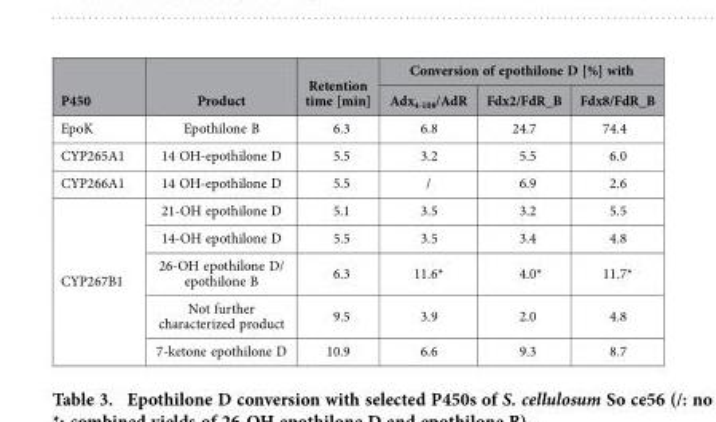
<table><thead><tr><td rowspan="2">P450</td><td rowspan="2">Product</td><td rowspan="2">Retention time [min]</td><td colspan="3">Conversion of epothilone D [%] with</td></tr><tr><td>Adx<sub>4-108</sub>/AdR</td><td>Fdx2/FdR_B</td><td>Fdx8/FdR_B</td></tr></thead><tbody><tr><td>EpoK</td><td>Epothilone B</td><td>6.3</td><td>6.8</td><td>24.7</td><td>74.4</td></tr><tr><td>CYP265A1</td><td>14 OH-epothilone D</td><td>5.5</td><td>3.2</td><td>5.5</td><td>6.0</td></tr><tr><td>CYP266A1</td><td>14 OH-epothilone D</td><td>5.5</td><td>/</td><td>6.9</td><td>2.6</td></tr><tr><td rowspan="5">CYP267B1</td><td>21-OH epothilone D</td><td>5.1</td><td>3.5</td><td>3.2</td><td>5.5</td></tr><tr><td>14-OH epothilone D</td><td>5.5</td><td>3.5</td><td>3.4</td><td>4.8</td></tr><tr><td>26-OH epothilone D/ epothilone B</td><td>6.3</td><td>11.6*</td><td>4.0*</td><td>11.7*</td></tr><tr><td>Not further characterized product</td><td>9.5</td><td>3.9</td><td>2.0</td><td>4.8</td></tr><tr><td>7-ketone epothilone D</td><td>10.9</td><td>6.6</td><td>9.3</td><td>8.7</td></tr></tbody></table>